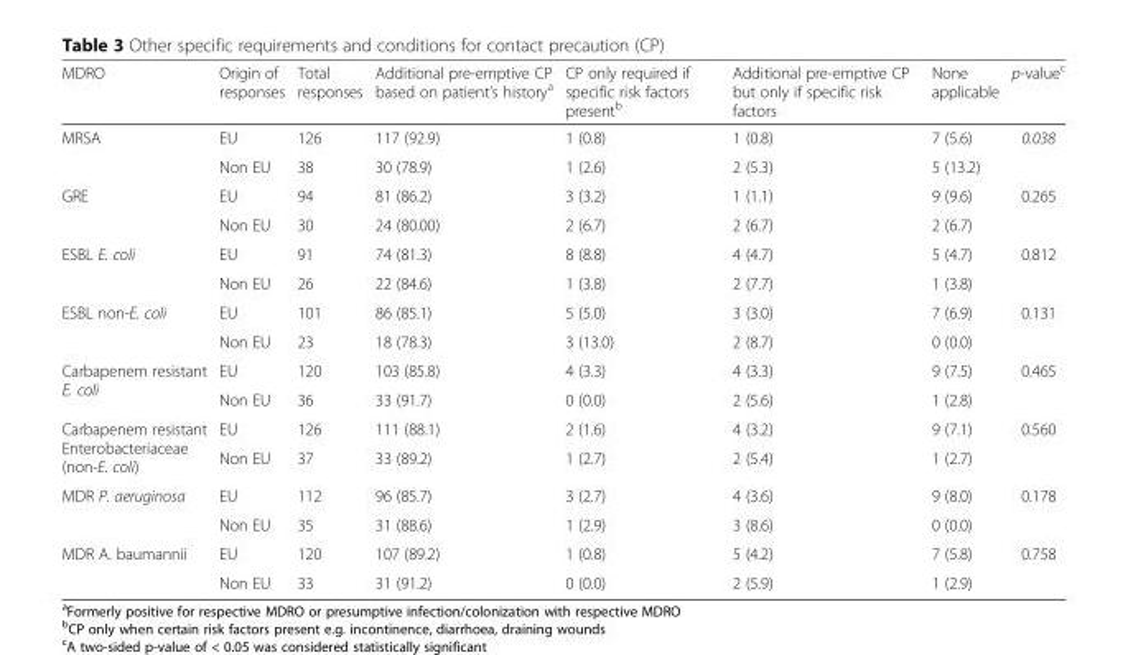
<table><thead><tr><td>MDRO</td><td>Origin of responses</td><td>Total responses</td><td>Additional pre-emptive CP based on patient’s history<sup>a</sup></td><td>CP only required if specific risk factors present<sup>b</sup></td><td>Additional pre-emptive CP but only if specific risk factors</td><td>None applicable</td><td>p-value<sup>c</sup></td></tr></thead><tbody><tr><td rowspan="2">MRSA</td><td>EU</td><td>126</td><td>117 (92.9)</td><td>1 (0.8)</td><td>1 (0.8)</td><td>7 (5.6)</td><td rowspan="2">0.038</td></tr><tr><td>Non EU</td><td>38</td><td>30 (78.9)</td><td>1 (2.6)</td><td>2 (5.3)</td><td>5 (13.2)</td></tr><tr><td rowspan="2">GRE</td><td>EU</td><td>94</td><td>81 (86.2)</td><td>3 (3.2)</td><td>1 (1.1)</td><td>9 (9.6)</td><td rowspan="2">0.265</td></tr><tr><td>Non EU</td><td>30</td><td>24 (80.00)</td><td>2 (6.7)</td><td>2 (6.7)</td><td>2 (6.7)</td></tr><tr><td rowspan="2">ESBL E. coli</td><td>EU</td><td>91</td><td>74 (81.3)</td><td>8 (8.8)</td><td>4 (4.7)</td><td>5 (4.7)</td><td rowspan="2">0.812</td></tr><tr><td>Non EU</td><td>26</td><td>22 (84.6)</td><td>1 (3.8)</td><td>2 (7.7)</td><td>1 (3.8)</td></tr><tr><td rowspan="2">ESBL non-E. coli</td><td>EU</td><td>101</td><td>86 (85.1)</td><td>5 (5.0)</td><td>3 (3.0)</td><td>7 (6.9)</td><td rowspan="2">0.131</td></tr><tr><td>Non EU</td><td>23</td><td>18 (78.3)</td><td>3 (13.0)</td><td>2 (8.7)</td><td>0 (0.0)</td></tr><tr><td rowspan="2">Carbapenem resistant E. coli</td><td>EU</td><td>120</td><td>103 (85.8)</td><td>4 (3.3)</td><td>4 (3.3)</td><td>9 (7.5)</td><td rowspan="2">0.465</td></tr><tr><td>Non EU</td><td>36</td><td>33 (91.7)</td><td>0 (0.0)</td><td>2 (5.6)</td><td>1 (2.8)</td></tr><tr><td rowspan="2">Carbapenem resistant Enterobacteriaceae (non-E. coli)</td><td>EU</td><td>126</td><td>111 (88.1)</td><td>2 (1.6)</td><td>4 (3.2)</td><td>9 (7.1)</td><td rowspan="2">0.560</td></tr><tr><td>Non EU</td><td>37</td><td>33 (89.2)</td><td>1 (2.7)</td><td>2 (5.4)</td><td>1 (2.7)</td></tr><tr><td rowspan="2">MDR P. aeruginosa</td><td>EU</td><td>112</td><td>96 (85.7)</td><td>3 (2.7)</td><td>4 (3.6)</td><td>9 (8.0)</td><td rowspan="2">0.178</td></tr><tr><td>Non EU</td><td>35</td><td>31 (88.6)</td><td>1 (2.9)</td><td>3 (8.6)</td><td>0 (0.0)</td></tr><tr><td rowspan="2">MDR A. baumannii</td><td>EU</td><td>120</td><td>107 (89.2)</td><td>1 (0.8)</td><td>5 (4.2)</td><td>7 (5.8)</td><td rowspan="2">0.758</td></tr><tr><td>Non EU</td><td>33</td><td>31 (91.2)</td><td>0 (0.0)</td><td>2 (5.9)</td><td>1 (2.9)</td></tr></tbody></table>